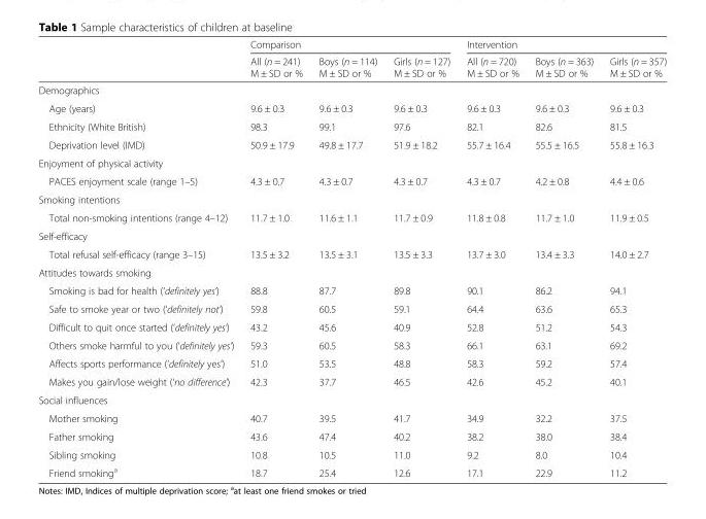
<table><thead><tr><td rowspan="2"></td><td colspan="3">Comparison</td><td colspan="3">Intervention</td></tr><tr><td>All (n = 241) M ± SD or %</td><td>Boys (n = 114) M ± SD or %</td><td>Girls (n = 127) M ± SD or %</td><td>All (n = 720) M ± SD or %</td><td>Boys (n = 363) M ± SD or %</td><td>Girls (n = 357) M ± SD or %</td></tr></thead><tbody><tr><td colspan="7">Demographics</td></tr><tr><td>Age (years)</td><td>9.6 ± 0.3</td><td>9.6 ± 0.3</td><td>9.6 ± 0.3</td><td>9.6 ± 0.3</td><td>9.6 ± 0.3</td><td>9.6 ± 0.3</td></tr><tr><td>Ethnicity (White British)</td><td>98.3</td><td>99.1</td><td>97.6</td><td>82.1</td><td>82.6</td><td>81.5</td></tr><tr><td>Deprivation level (IMD)</td><td>50.9 ± 17.9</td><td>49.8 ± 17.7</td><td>51.9 ± 18.2</td><td>55.7 ± 16.4</td><td>55.5 ± 16.5</td><td>55.8 ± 16.3</td></tr><tr><td colspan="7">Enjoyment of physical activity</td></tr><tr><td>PACES enjoyment scale (range 1–5)</td><td>4.3 ± 0.7</td><td>4.3 ± 0.7</td><td>4.3 ± 0.7</td><td>4.3 ± 0.7</td><td>4.2 ± 0.8</td><td>4.4 ± 0.6</td></tr><tr><td colspan="7">Smoking intentions</td></tr><tr><td>Total non-smoking intentions (range 4–12)</td><td>11.7 ± 1.0</td><td>11.6 ± 1.1</td><td>11.7 ± 0.9</td><td>11.8 ± 0.8</td><td>11.7 ± 1.0</td><td>11.9 ± 0.5</td></tr><tr><td colspan="7">Self-efficacy</td></tr><tr><td>Total refusal self-efficacy (range 3–15)</td><td>13.5 ± 3.2</td><td>13.5 ± 3.1</td><td>13.5 ± 3.3</td><td>13.7 ± 3.0</td><td>13.4 ± 3.3</td><td>14.0 ± 2.7</td></tr><tr><td colspan="7">Attitudes towards smoking</td></tr><tr><td>Smoking is bad for health (‘definitely yes’)</td><td>88.8</td><td>87.7</td><td>89.8</td><td>90.1</td><td>86.2</td><td>94.1</td></tr><tr><td>Safe to smoke year or two (‘definitely not’)</td><td>59.8</td><td>60.5</td><td>59.1</td><td>64.4</td><td>63.6</td><td>65.3</td></tr><tr><td>Difficult to quit once started (‘definitely yes’)</td><td>43.2</td><td>45.6</td><td>40.9</td><td>52.8</td><td>51.2</td><td>54.3</td></tr><tr><td>Others smoke harmful to you (‘definitely yes’)</td><td>59.3</td><td>60.5</td><td>58.3</td><td>66.1</td><td>63.1</td><td>69.2</td></tr><tr><td>Affects sports performance (‘definitely yes’)</td><td>51.0</td><td>53.5</td><td>48.8</td><td>58.3</td><td>59.2</td><td>57.4</td></tr><tr><td>Makes you gain/lose weight (‘no difference’)</td><td>42.3</td><td>37.7</td><td>46.5</td><td>42.6</td><td>45.2</td><td>40.1</td></tr><tr><td colspan="7">Social influences</td></tr><tr><td>Mother smoking</td><td>40.7</td><td>39.5</td><td>41.7</td><td>34.9</td><td>32.2</td><td>37.5</td></tr><tr><td>Father smoking</td><td>43.6</td><td>47.4</td><td>40.2</td><td>38.2</td><td>38.0</td><td>38.4</td></tr><tr><td>Sibling smoking</td><td>10.8</td><td>10.5</td><td>11.0</td><td>9.2</td><td>8.0</td><td>10.4</td></tr><tr><td>Friend smoking<sup>a</sup></td><td>18.7</td><td>25.4</td><td>12.6</td><td>17.1</td><td>22.9</td><td>11.2</td></tr></tbody></table>